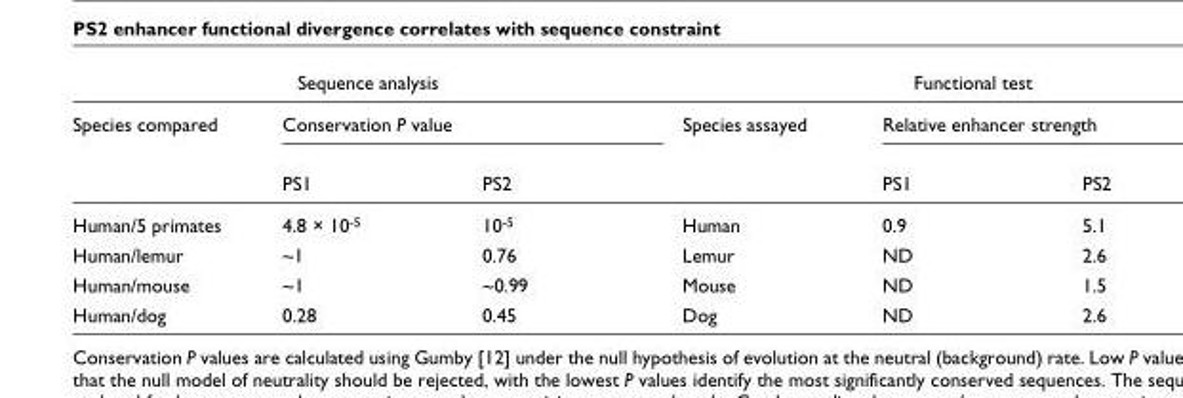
<table><thead><tr><td colspan="3">Sequence analysis</td><td colspan="3">Functional test</td></tr><tr><td rowspan="2">Species compared</td><td colspan="2">Conservation P value</td><td rowspan="2">Species assayed</td><td colspan="2">Relative enhancer strength</td></tr><tr><td>PS1</td><td>PS2</td><td>PS1</td><td>PS2</td></tr></thead><tbody><tr><td>Human/5 primates</td><td>4.8 × 10-5</td><td>10-5</td><td>Human</td><td>0.9</td><td>5.1</td></tr><tr><td>Human/lemur</td><td>~1</td><td>0.76</td><td>Lemur</td><td>ND</td><td>2.6</td></tr><tr><td>Human/mouse</td><td>~1</td><td>~0.99</td><td>Mouse</td><td>ND</td><td>1.5</td></tr><tr><td>Human/dog</td><td>0.28</td><td>0.45</td><td>Dog</td><td>ND</td><td>2.6</td></tr></tbody></table>